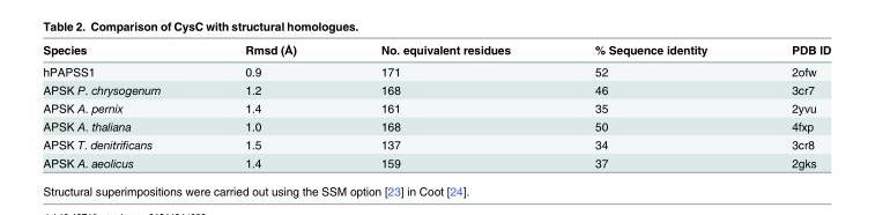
<table><thead><tr><td>Species</td><td>Rmsd (Å)</td><td>No. equivalent residues</td><td>% Sequence identity</td><td>PDB ID</td></tr></thead><tbody><tr><td>hPAPSS1</td><td>0.9</td><td>171</td><td>52</td><td>2ofw</td></tr><tr><td>APSK P. chrysogenum</td><td>1.2</td><td>168</td><td>46</td><td>3cr7</td></tr><tr><td>APSK A. pernix</td><td>1.4</td><td>161</td><td>35</td><td>2yvu</td></tr><tr><td>APSK A. thaliana</td><td>1.0</td><td>168</td><td>50</td><td>4fxp</td></tr><tr><td>APSK T. denitrificans</td><td>1.5</td><td>137</td><td>34</td><td>3cr8</td></tr><tr><td>APSK A. aeolicus</td><td>1.4</td><td>159</td><td>37</td><td>2gks</td></tr></tbody></table>